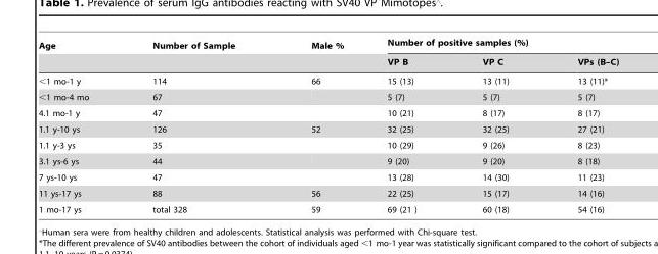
<table><thead><tr><td rowspan="2">Age</td><td rowspan="2">Number of Sample</td><td rowspan="2">Male %</td><td colspan="3">Number of positive samples (%)</td></tr><tr><td>VP B</td><td>VP C</td><td>VPs (B–C)</td></tr></thead><tbody><tr><td>&lt;1 mo-1 y</td><td>114</td><td>66</td><td>15 (13)</td><td>13 (11)</td><td>13 (11)*</td></tr><tr><td>&lt;1 mo-4 mo</td><td>67</td><td></td><td>5 (7)</td><td>5 (7)</td><td>5 (7)</td></tr><tr><td>4.1 mo-1 y</td><td>47</td><td></td><td>10 (21)</td><td>8 (17)</td><td>8 (17)</td></tr><tr><td>1.1 y-10 ys</td><td>126</td><td>52</td><td>32 (25)</td><td>32 (25)</td><td>27 (21)</td></tr><tr><td>1.1 y-3 ys</td><td>35</td><td></td><td>10 (29)</td><td>9 (26)</td><td>8 (23)</td></tr><tr><td>3.1 ys-6 ys</td><td>44</td><td></td><td>9 (20)</td><td>9 (20)</td><td>8 (18)</td></tr><tr><td>7 ys-10 ys</td><td>47</td><td></td><td>13 (28)</td><td>14 (30)</td><td>11 (23)</td></tr><tr><td>11 ys-17 ys</td><td>88</td><td>56</td><td>22 (25)</td><td>15 (17)</td><td>14 (16)</td></tr><tr><td>1 mo-17 ys</td><td>total 328</td><td>59</td><td>69 (21 )</td><td>60 (18)</td><td>54 (16)</td></tr></tbody></table>